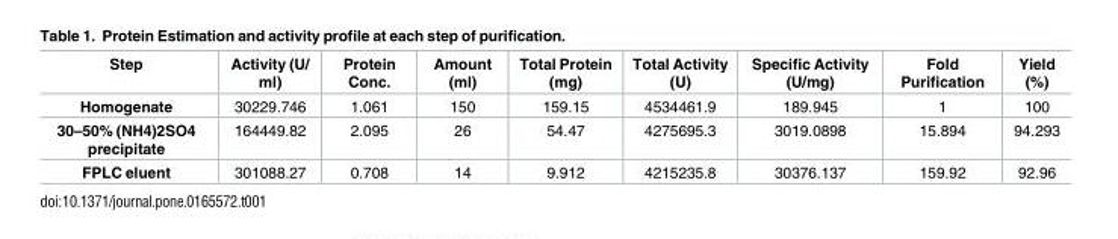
<table><thead><tr><td>Step</td><td>Activity (U/ ml)</td><td>Protein Conc.</td><td>Amount (ml)</td><td>Total Protein (mg)</td><td>Total Activity (U)</td><td>Specific Activity (U/mg)</td><td>Fold Purification</td><td>Yield (%)</td></tr></thead><tbody><tr><td>Homogenate</td><td>30229.746</td><td>1.061</td><td>150</td><td>159.15</td><td>4534461.9</td><td>189.945</td><td>1</td><td>100</td></tr><tr><td>30–50% (NH4)2SO4 precipitate</td><td>164449.82</td><td>2.095</td><td>26</td><td>54.47</td><td>4275695.3</td><td>3019.0898</td><td>15.894</td><td>94.293</td></tr><tr><td>FPLC eluent</td><td>301088.27</td><td>0.708</td><td>14</td><td>9.912</td><td>4215235.8</td><td>30376.137</td><td>159.92</td><td>92.96</td></tr></tbody></table>